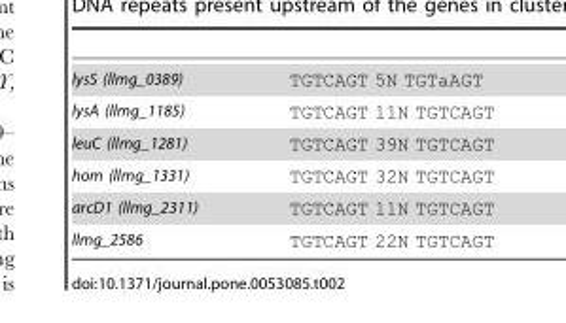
<table><tbody><tr><td>lysS (llmg_0389)</td><td>TGTCAGT 5N TGTaAGT</td></tr><tr><td>lysA (llmg_1185)</td><td>TGTCAGT 11N TGTCAGT</td></tr><tr><td>leuC (llmg_1281)</td><td>TGTCAGT 39N TGTCAGT</td></tr><tr><td>hom (llmg_1331)</td><td>TGTCAGT 32N TGTCAGT</td></tr><tr><td>arcD1 (llmg_2311)</td><td>TGTCAGT 11N TGTCAGT</td></tr><tr><td>llmg_2586</td><td>TGTCAGT 22N TGTCAGT</td></tr></tbody></table>